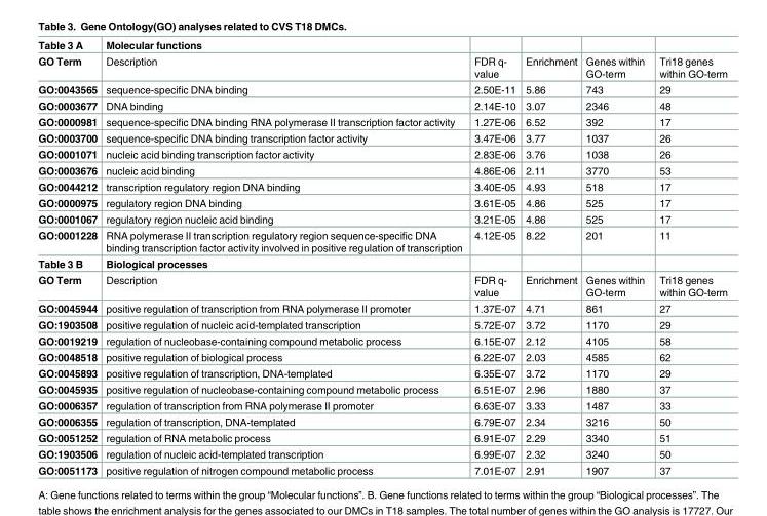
<table><tbody><tr><td>Table 3 A</td><td>Molecular functions</td><td></td><td></td><td></td><td></td></tr><tr><td>GO Term</td><td>Description</td><td>FDR q- value</td><td>Enrichment</td><td>Genes within GO-term</td><td>Tri18 genes within GO-term</td></tr><tr><td>GO:0043565</td><td>sequence-specific DNA binding</td><td>2.50E-11</td><td>5.86</td><td>743</td><td>29</td></tr><tr><td>GO:0003677</td><td>DNA binding</td><td>2.14E-10</td><td>3.07</td><td>2346</td><td>48</td></tr><tr><td>GO:0000981</td><td>sequence-specific DNA binding RNA polymerase II transcription factor activity</td><td>1.27E-06</td><td>6.52</td><td>392</td><td>17</td></tr><tr><td>GO:0003700</td><td>sequence-specific DNA binding transcription factor activity</td><td>3.47E-06</td><td>3.77</td><td>1037</td><td>26</td></tr><tr><td>GO:0001071</td><td>nucleic acid binding transcription factor activity</td><td>2.83E-06</td><td>3.76</td><td>1038</td><td>26</td></tr><tr><td>GO:0003676</td><td>nucleic acid binding</td><td>4.86E-06</td><td>2.11</td><td>3770</td><td>53</td></tr><tr><td>GO:0044212</td><td>transcription regulatory region DNA binding</td><td>3.40E-05</td><td>4.93</td><td>518</td><td>17</td></tr><tr><td>GO:0000975</td><td>regulatory region DNA binding</td><td>3.61E-05</td><td>4.86</td><td>525</td><td>17</td></tr><tr><td>GO:0001067</td><td>regulatory region nucleic acid binding</td><td>3.21E-05</td><td>4.86</td><td>525</td><td>17</td></tr><tr><td>GO:0001228</td><td>RNA polymerase II transcription regulatory region sequence-specific DNA binding transcription factor activity involved in positive regulation of transcription</td><td>4.12E-05</td><td>8.22</td><td>201</td><td>11</td></tr><tr><td>Table 3 B</td><td>Biological processes</td><td></td><td></td><td></td><td></td></tr><tr><td>GO Term</td><td>Description</td><td>FDR q- value</td><td>Enrichment</td><td>Genes within GO-term</td><td>Tri18 genes within GO-term</td></tr><tr><td>GO:0045944</td><td>positive regulation of transcription from RNA polymerase II promoter</td><td>1.37E-07</td><td>4.71</td><td>861</td><td>27</td></tr><tr><td>GO:1903508</td><td>positive regulation of nucleic acid-templated transcription</td><td>5.72E-07</td><td>3.72</td><td>1170</td><td>29</td></tr><tr><td>GO:0019219</td><td>regulation of nucleobase-containing compound metabolic process</td><td>6.15E-07</td><td>2.12</td><td>4105</td><td>58</td></tr><tr><td>GO:0048518</td><td>positive regulation of biological process</td><td>6.22E-07</td><td>2.03</td><td>4585</td><td>62</td></tr><tr><td>GO:0045893</td><td>positive regulation of transcription, DNA-templated</td><td>6.35E-07</td><td>3.72</td><td>1170</td><td>29</td></tr><tr><td>GO:0045935</td><td>positive regulation of nucleobase-containing compound metabolic process</td><td>6.51E-07</td><td>2.96</td><td>1880</td><td>37</td></tr><tr><td>GO:0006357</td><td>regulation of transcription from RNA polymerase II promoter</td><td>6.63E-07</td><td>3.33</td><td>1487</td><td>33</td></tr><tr><td>GO:0006355</td><td>regulation of transcription, DNA-templated</td><td>6.79E-07</td><td>2.34</td><td>3216</td><td>50</td></tr><tr><td>GO:0051252</td><td>regulation of RNA metabolic process</td><td>6.91E-07</td><td>2.29</td><td>3340</td><td>51</td></tr><tr><td>GO:1903506</td><td>regulation of nucleic acid-templated transcription</td><td>6.99E-07</td><td>2.32</td><td>3240</td><td>50</td></tr><tr><td>GO:0051173</td><td>positive regulation of nitrogen compound metabolic process</td><td>7.01E-07</td><td>2.91</td><td>1907</td><td>37</td></tr></tbody></table>